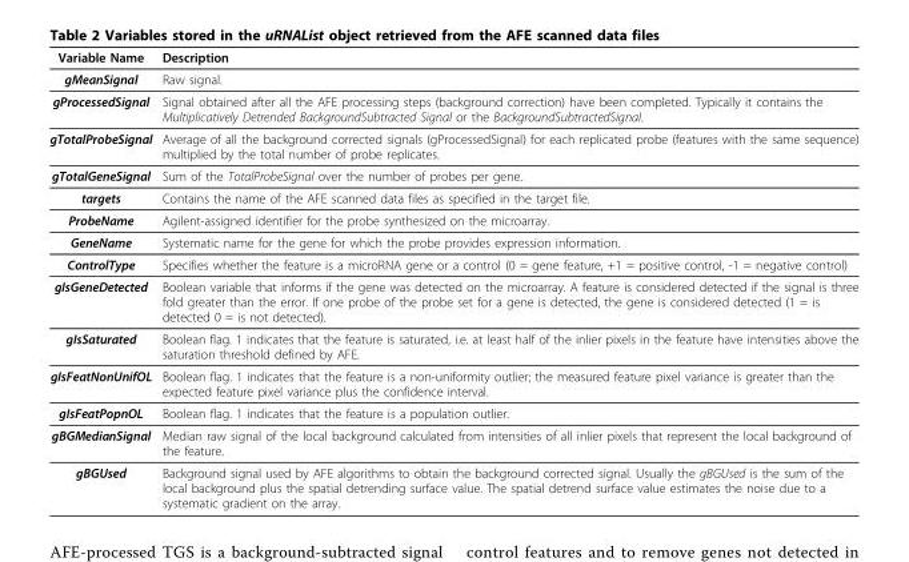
<table><thead><tr><td>Variable Name</td><td>Description</td></tr></thead><tbody><tr><td>gMeanSignal</td><td>Raw signal.</td></tr><tr><td>gProcessedSignal</td><td>Signal obtained after all the AFE processing steps (background correction) have been completed. Typically it contains the Multiplicatively Detrended BackgroundSubtracted Signal or the BackgroundSubtractedSignal.</td></tr><tr><td>gTotalProbeSignal</td><td>Average of all the background corrected signals (gProcessedSignal) for each replicated probe (features with the same sequence) multiplied by the total number of probe replicates.</td></tr><tr><td>gTotalGeneSignal</td><td>Sum of the TotalProbeSignal over the number of probes per gene.</td></tr><tr><td>targets</td><td>Contains the name of the AFE scanned data files as specified in the target file.</td></tr><tr><td>ProbeName</td><td>Agilent-assigned identifier for the probe synthesized on the microarray.</td></tr><tr><td>GeneName</td><td>Systematic name for the gene for which the probe provides expression information.</td></tr><tr><td>ControlType</td><td>Specifies whether the feature is a microRNA gene or a control (0 = gene feature, +1 = positive control, -1 = negative control)</td></tr><tr><td>gIsGeneDetected</td><td>Boolean variable that informs if the gene was detected on the microarray. A feature is considered detected if the signal is three fold greater than the error. If one probe of the probe set for a gene is detected, the gene is considered detected (1 = is detected 0 = is not detected).</td></tr><tr><td>gIsSaturated</td><td>Boolean flag. 1 indicates that the feature is saturated, i.e. at least half of the inlier pixels in the feature have intensities above the saturation threshold defined by AFE.</td></tr><tr><td>gIsFeatNonUnifOL</td><td>Boolean flag. 1 indicates that the feature is a non-uniformity outlier; the measured feature pixel variance is greater than the expected feature pixel variance plus the confidence interval.</td></tr><tr><td>gIsFeatPopnOL</td><td>Boolean flag. 1 indicates that the feature is a population outlier.</td></tr><tr><td>gBGMedianSignal</td><td>Median raw signal of the local background calculated from intensities of all inlier pixels that represent the local background of the feature.</td></tr><tr><td>gBGUsed</td><td>Background signal used by AFE algorithms to obtain the background corrected signal. Usually the gBGUsed is the sum of the local background plus the spatial detrending surface value. The spatial detrend surface value estimates the noise due to a systematic gradient on the array.</td></tr></tbody></table>